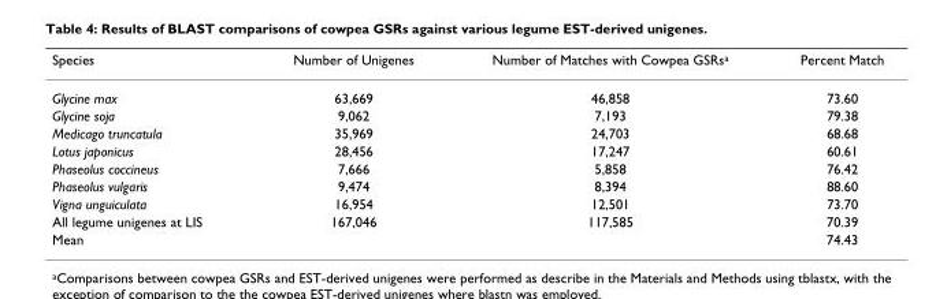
<table><thead><tr><td>Species</td><td>Number of Unigenes</td><td>Number of Matches with Cowpea GSRs<sup>a</sup></td><td>Percent Match</td></tr></thead><tbody><tr><td>Glycine max</td><td>63,669</td><td>46,858</td><td>73.60</td></tr><tr><td>Glycine soja</td><td>9,062</td><td>7,193</td><td>79.38</td></tr><tr><td>Medicago truncatula</td><td>35,969</td><td>24,703</td><td>68.68</td></tr><tr><td>Lotus japonicus</td><td>28,456</td><td>17,247</td><td>60.61</td></tr><tr><td>Phaseolus coccineus</td><td>7,666</td><td>5,858</td><td>76.42</td></tr><tr><td>Phaseolus vulgaris</td><td>9,474</td><td>8,394</td><td>88.60</td></tr><tr><td>Vigna unguiculata</td><td>16,954</td><td>12,501</td><td>73.70</td></tr><tr><td>All legume unigenes at LIS</td><td>167,046</td><td>117,585</td><td>70.39</td></tr><tr><td>Mean</td><td></td><td></td><td>74.43</td></tr></tbody></table>